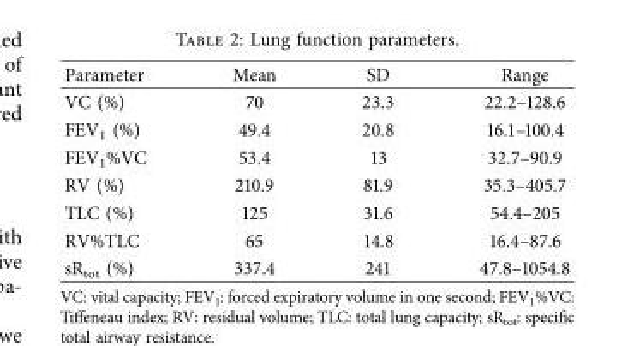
<table><thead><tr><td>Parameter</td><td>Mean</td><td>SD</td><td>Range</td></tr></thead><tbody><tr><td>VC (%)</td><td>70</td><td>23.3</td><td>22.2–128.6</td></tr><tr><td>FEV<sub>1</sub> (%)</td><td>49.4</td><td>20.8</td><td>16.1–100.4</td></tr><tr><td>FEV<sub>1</sub>%VC</td><td>53.4</td><td>13</td><td>32.7–90.9</td></tr><tr><td>RV (%)</td><td>210.9</td><td>81.9</td><td>35.3–405.7</td></tr><tr><td>TLC (%)</td><td>125</td><td>31.6</td><td>54.4–205</td></tr><tr><td>RV%TLC</td><td>65</td><td>14.8</td><td>16.4–87.6</td></tr><tr><td>sR<sub>tot</sub> (%)</td><td>337.4</td><td>241</td><td>47.8–1054.8</td></tr></tbody></table>